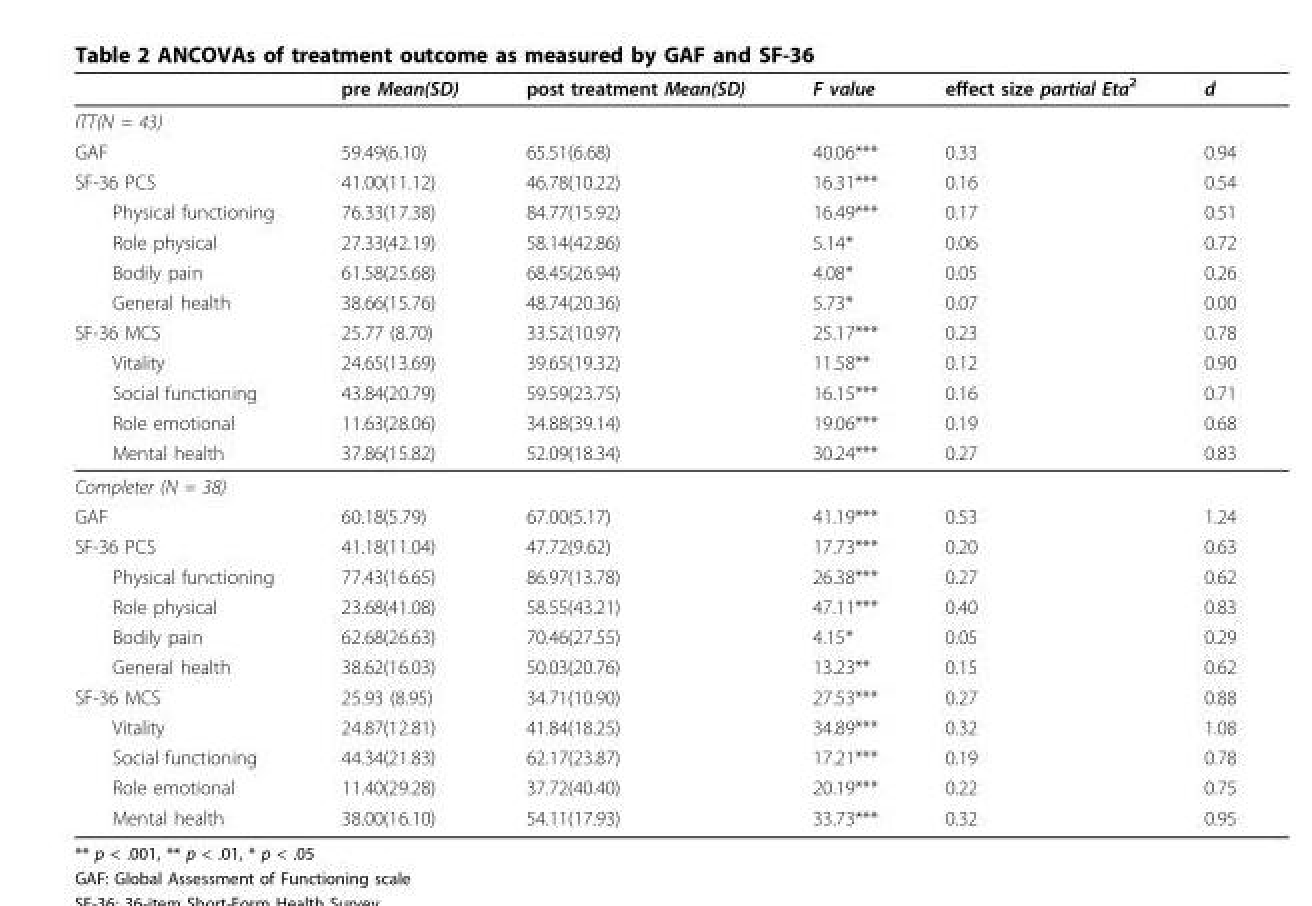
<table><thead><tr><td></td><td>pre Mean(SD)</td><td>post treatment Mean(SD)</td><td>F value</td><td>effect size partial Eta<sup>2</sup></td><td>d</td></tr></thead><tbody><tr><td colspan="6">ITT(N = 43)</td></tr><tr><td>GAF</td><td>59.49(6.10)</td><td>65.51(6.68)</td><td>40.06***</td><td>0.33</td><td>0.94</td></tr><tr><td>SF-36 PCS</td><td>41.00(11.12)</td><td>46.78(10.22)</td><td>16.31***</td><td>0.16</td><td>0.54</td></tr><tr><td>Physical functioning</td><td>76.33(17.38)</td><td>84.77(15.92)</td><td>16.49***</td><td>0.17</td><td>0.51</td></tr><tr><td>Role physical</td><td>27.33(42.19)</td><td>58.14(42.86)</td><td>5.14*</td><td>0.06</td><td>0.72</td></tr><tr><td>Bodily pain</td><td>61.58(25.68)</td><td>68.45(26.94)</td><td>4.08*</td><td>0.05</td><td>0.26</td></tr><tr><td>General health</td><td>38.66(15.76)</td><td>48.74(20.36)</td><td>5.73*</td><td>0.07</td><td>0.00</td></tr><tr><td>SF-36 MCS</td><td>25.77 (8.70)</td><td>33.52(10.97)</td><td>25.17***</td><td>0.23</td><td>0.78</td></tr><tr><td>Vitality</td><td>24.65(13.69)</td><td>39.65(19.32)</td><td>11.58**</td><td>0.12</td><td>0.90</td></tr><tr><td>Social functioning</td><td>43.84(20.79)</td><td>59.59(23.75)</td><td>16.15***</td><td>0.16</td><td>0.71</td></tr><tr><td>Role emotional</td><td>11.63(28.06)</td><td>34.88(39.14)</td><td>19.06***</td><td>0.19</td><td>0.68</td></tr><tr><td>Mental health</td><td>37.86(15.82)</td><td>52.09(18.34)</td><td>30.24***</td><td>0.27</td><td>0.83</td></tr><tr><td colspan="6">Completer (N = 38)</td></tr><tr><td>GAF</td><td>60.18(5.79)</td><td>67.00(5.17)</td><td>41.19***</td><td>0.53</td><td>1.24</td></tr><tr><td>SF-36 PCS</td><td>41.18(11.04)</td><td>47.72(9.62)</td><td>17.73***</td><td>0.20</td><td>0.63</td></tr><tr><td>Physical functioning</td><td>77.43(16.65)</td><td>86.97(13.78)</td><td>26.38***</td><td>0.27</td><td>0.62</td></tr><tr><td>Role physical</td><td>23.68(41.08)</td><td>58.55(43.21)</td><td>47.11***</td><td>0.40</td><td>0.83</td></tr><tr><td>Bodily pain</td><td>62.68(26.63)</td><td>70.46(27.55)</td><td>4.15*</td><td>0.05</td><td>0.29</td></tr><tr><td>General health</td><td>38.62(16.03)</td><td>50.03(20.76)</td><td>13.23**</td><td>0.15</td><td>0.62</td></tr><tr><td>SF-36 MCS</td><td>25.93 (8.95)</td><td>34.71(10.90)</td><td>27.53***</td><td>0.27</td><td>0.88</td></tr><tr><td>Vitality</td><td>24.87(12.81)</td><td>41.84(18.25)</td><td>34.89***</td><td>0.32</td><td>1.08</td></tr><tr><td>Social functioning</td><td>44.34(21.83)</td><td>62.17(23.87)</td><td>17.21***</td><td>0.19</td><td>0.78</td></tr><tr><td>Role emotional</td><td>11.40(29.28)</td><td>37.72(40.40)</td><td>20.19***</td><td>0.22</td><td>0.75</td></tr><tr><td>Mental health</td><td>38.00(16.10)</td><td>54.11(17.93)</td><td>33.73***</td><td>0.32</td><td>0.95</td></tr></tbody></table>